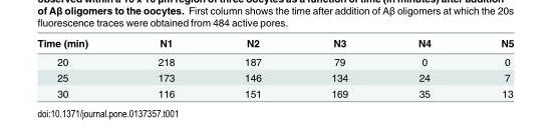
<table><thead><tr><td>Time (min)</td><td>N1</td><td>N2</td><td>N3</td><td>N4</td><td>N5</td></tr></thead><tbody><tr><td>20</td><td>218</td><td>187</td><td>79</td><td>0</td><td>0</td></tr><tr><td>25</td><td>173</td><td>146</td><td>134</td><td>24</td><td>7</td></tr><tr><td>30</td><td>116</td><td>151</td><td>169</td><td>35</td><td>13</td></tr></tbody></table>